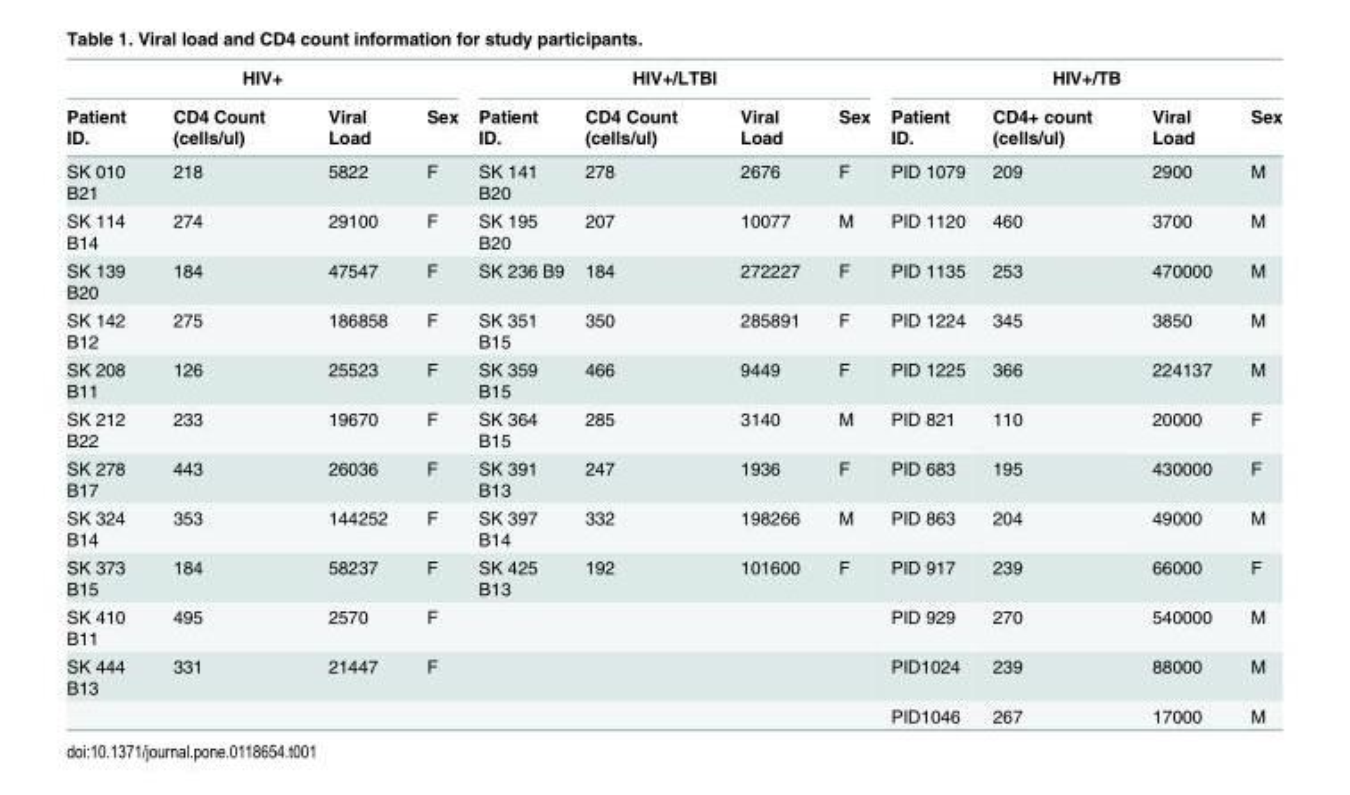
<table><thead><tr><td colspan="4">HIV+</td><td colspan="4">HIV+/LTBI</td><td colspan="4">HIV+/TB</td></tr><tr><td>Patient ID.</td><td>CD4 Count (cells/ul)</td><td>Viral Load</td><td>Sex</td><td>Patient ID.</td><td>CD4 Count (cells/ul)</td><td>Viral Load</td><td>Sex</td><td>Patient ID.</td><td>CD4+ count (cells/ul)</td><td>Viral Load</td><td>Sex</td></tr></thead><tbody><tr><td>SK 010 B21</td><td>218</td><td>5822</td><td>F</td><td>SK 141 B20</td><td>278</td><td>2676</td><td>F</td><td>PID 1079</td><td>209</td><td>2900</td><td>M</td></tr><tr><td>SK 114 B14</td><td>274</td><td>29100</td><td>F</td><td>SK 195 B20</td><td>207</td><td>10077</td><td>M</td><td>PID 1120</td><td>460</td><td>3700</td><td>M</td></tr><tr><td>SK 139 B20</td><td>184</td><td>47547</td><td>F</td><td>SK 236 B9</td><td>184</td><td>272227</td><td>F</td><td>PID 1135</td><td>253</td><td>470000</td><td>M</td></tr><tr><td>SK 142 B12</td><td>275</td><td>186858</td><td>F</td><td>SK 351 B15</td><td>350</td><td>285891</td><td>F</td><td>PID 1224</td><td>345</td><td>3850</td><td>M</td></tr><tr><td>SK 208 B11</td><td>126</td><td>25523</td><td>F</td><td>SK 359 B15</td><td>466</td><td>9449</td><td>F</td><td>PID 1225</td><td>366</td><td>224137</td><td>M</td></tr><tr><td>SK 212 B22</td><td>233</td><td>19670</td><td>F</td><td>SK 364 B15</td><td>285</td><td>3140</td><td>M</td><td>PID 821</td><td>110</td><td>20000</td><td>F</td></tr><tr><td>SK 278 B17</td><td>443</td><td>26036</td><td>F</td><td>SK 391 B13</td><td>247</td><td>1936</td><td>F</td><td>PID 683</td><td>195</td><td>430000</td><td>F</td></tr><tr><td>SK 324 B14</td><td>353</td><td>144252</td><td>F</td><td>SK 397 B14</td><td>332</td><td>198266</td><td>M</td><td>PID 863</td><td>204</td><td>49000</td><td>M</td></tr><tr><td>SK 373 B15</td><td>184</td><td>58237</td><td>F</td><td>SK 425 B13</td><td>192</td><td>101600</td><td>F</td><td>PID 917</td><td>239</td><td>66000</td><td>F</td></tr><tr><td>SK 410 B11</td><td>495</td><td>2570</td><td>F</td><td></td><td></td><td></td><td></td><td>PID 929</td><td>270</td><td>540000</td><td>M</td></tr><tr><td rowspan="2">SK 444 B13</td><td>331</td><td>21447</td><td>F</td><td></td><td></td><td></td><td></td><td>PID1024</td><td>239</td><td>88000</td><td>M</td></tr><tr><td></td><td></td><td></td><td></td><td></td><td></td><td></td><td>PID1046</td><td>267</td><td>17000</td><td>M</td></tr></tbody></table>